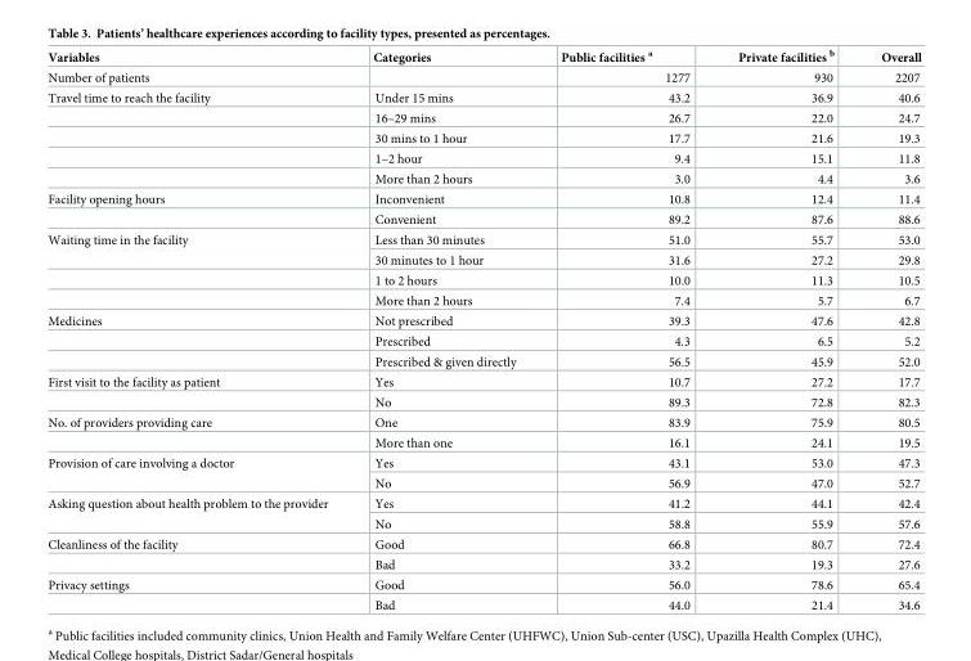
<table><thead><tr><td>Variables</td><td>Categories</td><td>Public facilities <sup>a</sup></td><td>Private facilities <sup>b</sup></td><td>Overall</td></tr></thead><tbody><tr><td>Number of patients</td><td></td><td>1277</td><td>930</td><td>2207</td></tr><tr><td rowspan="5">Travel time to reach the facility</td><td>Under 15 mins</td><td>43.2</td><td>36.9</td><td>40.6</td></tr><tr><td>16–29 mins</td><td>26.7</td><td>22.0</td><td>24.7</td></tr><tr><td>30 mins to 1 hour</td><td>17.7</td><td>21.6</td><td>19.3</td></tr><tr><td>1–2 hour</td><td>9.4</td><td>15.1</td><td>11.8</td></tr><tr><td>More than 2 hours</td><td>3.0</td><td>4.4</td><td>3.6</td></tr><tr><td rowspan="2">Facility opening hours</td><td>Inconvenient</td><td>10.8</td><td>12.4</td><td>11.4</td></tr><tr><td>Convenient</td><td>89.2</td><td>87.6</td><td>88.6</td></tr><tr><td rowspan="4">Waiting time in the facility</td><td>Less than 30 minutes</td><td>51.0</td><td>55.7</td><td>53.0</td></tr><tr><td>30 minutes to 1 hour</td><td>31.6</td><td>27.2</td><td>29.8</td></tr><tr><td>1 to 2 hours</td><td>10.0</td><td>11.3</td><td>10.5</td></tr><tr><td>More than 2 hours</td><td>7.4</td><td>5.7</td><td>6.7</td></tr><tr><td rowspan="3">Medicines</td><td>Not prescribed</td><td>39.3</td><td>47.6</td><td>42.8</td></tr><tr><td>Prescribed</td><td>4.3</td><td>6.5</td><td>5.2</td></tr><tr><td>Prescribed &amp; given directly</td><td>56.5</td><td>45.9</td><td>52.0</td></tr><tr><td rowspan="2">First visit to the facility as patient</td><td>Yes</td><td>10.7</td><td>27.2</td><td>17.7</td></tr><tr><td>No</td><td>89.3</td><td>72.8</td><td>82.3</td></tr><tr><td rowspan="2">No. of providers providing care</td><td>One</td><td>83.9</td><td>75.9</td><td>80.5</td></tr><tr><td>More than one</td><td>16.1</td><td>24.1</td><td>19.5</td></tr><tr><td rowspan="2">Provision of care involving a doctor</td><td>Yes</td><td>43.1</td><td>53.0</td><td>47.3</td></tr><tr><td>No</td><td>56.9</td><td>47.0</td><td>52.7</td></tr><tr><td rowspan="2">Asking question about health problem to the provider</td><td>Yes</td><td>41.2</td><td>44.1</td><td>42.4</td></tr><tr><td>No</td><td>58.8</td><td>55.9</td><td>57.6</td></tr><tr><td rowspan="2">Cleanliness of the facility</td><td>Good</td><td>66.8</td><td>80.7</td><td>72.4</td></tr><tr><td>Bad</td><td>33.2</td><td>19.3</td><td>27.6</td></tr><tr><td rowspan="2">Privacy settings</td><td>Good</td><td>56.0</td><td>78.6</td><td>65.4</td></tr><tr><td>Bad</td><td>44.0</td><td>21.4</td><td>34.6</td></tr></tbody></table>